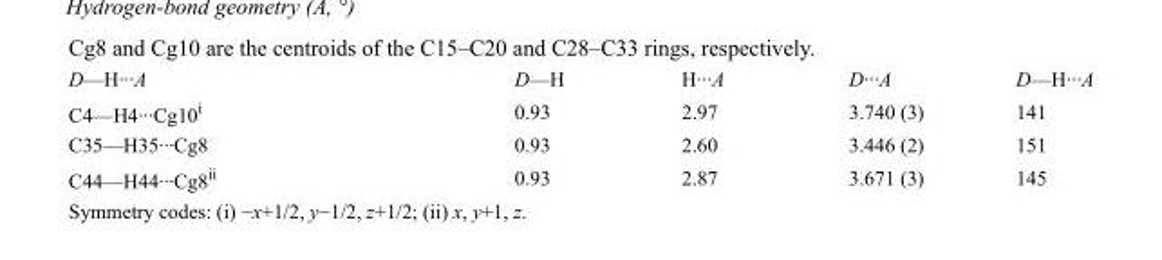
<table><tbody><tr><td>D—H···A</td><td>D—H</td><td>H···A</td><td>D···A</td><td>D—H···A</td></tr><tr><td>C4—H4···Cg10<sup>i</sup></td><td>0.93</td><td>2.97</td><td>3.740 (3)</td><td>141</td></tr><tr><td>C35—H35···Cg8</td><td>0.93</td><td>2.60</td><td>3.446 (2)</td><td>151</td></tr><tr><td>C44—H44···Cg8<sup>ii</sup></td><td>0.93</td><td>2.87</td><td>3.671 (3)</td><td>145</td></tr></tbody></table>